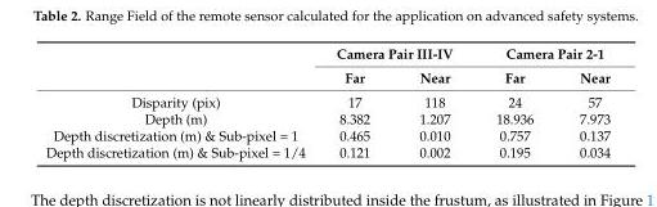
<table><thead><tr><td rowspan="2"></td><td colspan="2">Camera Pair III-IV</td><td colspan="2">Camera Pair 2-1</td></tr><tr><td>Far</td><td>Near</td><td>Far</td><td>Near</td></tr></thead><tbody><tr><td>Disparity (pix)</td><td>17</td><td>118</td><td>24</td><td>57</td></tr><tr><td>Depth (m)</td><td>8.382</td><td>1.207</td><td>18.936</td><td>7.973</td></tr><tr><td>Depth discretization (m) &amp; Sub-pixel = 1</td><td>0.465</td><td>0.010</td><td>0.757</td><td>0.137</td></tr><tr><td>Depth discretization (m) &amp; Sub-pixel = 1/4</td><td>0.121</td><td>0.002</td><td>0.195</td><td>0.034</td></tr></tbody></table>